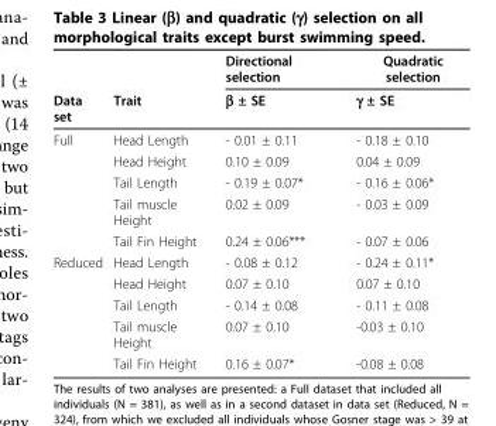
<table><thead><tr><td rowspan="2">Data set</td><td rowspan="2">Trait</td><td rowspan="2">Directional selection β ± SE</td><td rowspan="2">Quadratic selection γ ± SE</td></tr><tr></tr></thead><tbody><tr><td rowspan="5">Full</td><td>Head Length</td><td>- 0.01 ± 0.11</td><td>- 0.18 ± 0.10</td></tr><tr><td>Head Height</td><td>0.10 ± 0.09</td><td>0.04 ± 0.09</td></tr><tr><td>Tail Length</td><td>- 0.19 ± 0.07*</td><td>- 0.16 ± 0.06*</td></tr><tr><td>Tail muscle Height</td><td>0.02 ± 0.09</td><td>- 0.03 ± 0.09</td></tr><tr><td>Tail Fin Height</td><td>0.24 ± 0.06***</td><td>- 0.07 ± 0.06</td></tr><tr><td rowspan="5">Reduced</td><td>Head Length</td><td>- 0.08 ± 0.12</td><td>- 0.24 ± 0.11*</td></tr><tr><td>Head Height</td><td>0.07 ± 0.10</td><td>0.07 ± 0.10</td></tr><tr><td>Tail Length</td><td>- 0.14 ± 0.08</td><td>- 0.11 ± 0.08</td></tr><tr><td>Tail muscle Height</td><td>0.07 ± 0.10</td><td>-0.03 ± 0.10</td></tr><tr><td>Tail Fin Height</td><td>0.16 ± 0.07*</td><td>-0.08 ± 0.08</td></tr></tbody></table>